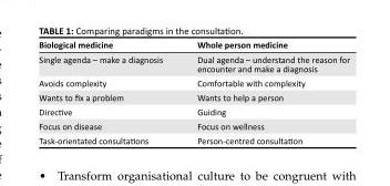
<table><thead><tr><td>Biological medicine</td><td>Whole person medicine</td></tr></thead><tbody><tr><td>Single agenda – make a diagnosis</td><td>Dual agenda – understand the reason for encounter and make a diagnosis</td></tr><tr><td>Avoids complexity</td><td>Comfortable with complexity</td></tr><tr><td>Wants to fix a problem</td><td>Wants to help a person</td></tr><tr><td>Directive</td><td>Guiding</td></tr><tr><td>Focus on disease</td><td>Focus on wellness</td></tr><tr><td>Task-orientated consultations</td><td>Person-centred consultation</td></tr></tbody></table>